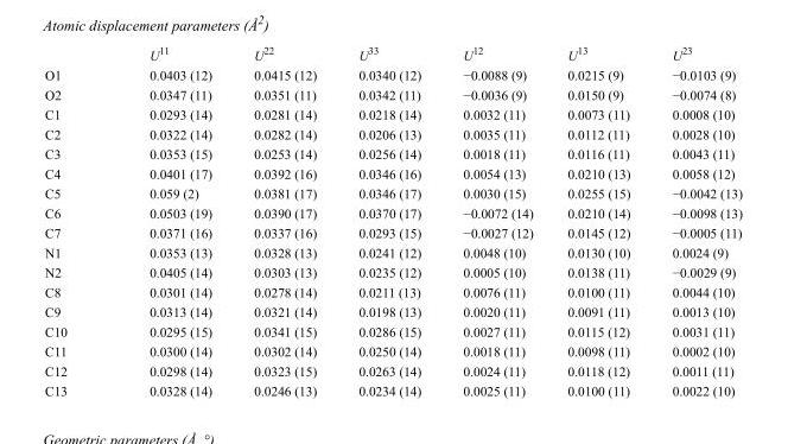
<table><thead><tr><td></td><td>U<sup>11</sup></td><td>U<sup>22</sup></td><td>U<sup>33</sup></td><td>U<sup>12</sup></td><td>U<sup>13</sup></td><td>U<sup>23</sup></td></tr></thead><tbody><tr><td>O1</td><td>0.0403 (12)</td><td>0.0415 (12)</td><td>0.0340 (12)</td><td>−0.0088 (9)</td><td>0.0215 (9)</td><td>−0.0103 (9)</td></tr><tr><td>O2</td><td>0.0347 (11)</td><td>0.0351 (11)</td><td>0.0342 (11)</td><td>−0.0036 (9)</td><td>0.0150 (9)</td><td>−0.0074 (8)</td></tr><tr><td>C1</td><td>0.0293 (14)</td><td>0.0281 (14)</td><td>0.0218 (14)</td><td>0.0032 (11)</td><td>0.0073 (11)</td><td>0.0008 (10)</td></tr><tr><td>C2</td><td>0.0322 (14)</td><td>0.0282 (14)</td><td>0.0206 (13)</td><td>0.0035 (11)</td><td>0.0112 (11)</td><td>0.0028 (10)</td></tr><tr><td>C3</td><td>0.0353 (15)</td><td>0.0253 (14)</td><td>0.0256 (14)</td><td>0.0018 (11)</td><td>0.0116 (11)</td><td>0.0043 (11)</td></tr><tr><td>C4</td><td>0.0401 (17)</td><td>0.0392 (16)</td><td>0.0346 (16)</td><td>0.0054 (13)</td><td>0.0210 (13)</td><td>0.0058 (12)</td></tr><tr><td>C5</td><td>0.059 (2)</td><td>0.0381 (17)</td><td>0.0346 (17)</td><td>0.0030 (15)</td><td>0.0255 (15)</td><td>−0.0042 (13)</td></tr><tr><td>C6</td><td>0.0503 (19)</td><td>0.0390 (17)</td><td>0.0370 (17)</td><td>−0.0072 (14)</td><td>0.0210 (14)</td><td>−0.0098 (13)</td></tr><tr><td>C7</td><td>0.0371 (16)</td><td>0.0337 (16)</td><td>0.0293 (15)</td><td>−0.0027 (12)</td><td>0.0145 (12)</td><td>−0.0005 (11)</td></tr><tr><td>N1</td><td>0.0353 (13)</td><td>0.0328 (13)</td><td>0.0241 (12)</td><td>0.0048 (10)</td><td>0.0130 (10)</td><td>0.0024 (9)</td></tr><tr><td>N2</td><td>0.0405 (14)</td><td>0.0303 (13)</td><td>0.0235 (12)</td><td>0.0005 (10)</td><td>0.0138 (11)</td><td>−0.0029 (9)</td></tr><tr><td>C8</td><td>0.0301 (14)</td><td>0.0278 (14)</td><td>0.0211 (13)</td><td>0.0076 (11)</td><td>0.0100 (11)</td><td>0.0044 (10)</td></tr><tr><td>C9</td><td>0.0313 (14)</td><td>0.0321 (14)</td><td>0.0198 (13)</td><td>0.0020 (11)</td><td>0.0091 (11)</td><td>0.0013 (10)</td></tr><tr><td>C10</td><td>0.0295 (15)</td><td>0.0341 (15)</td><td>0.0286 (15)</td><td>0.0027 (11)</td><td>0.0115 (12)</td><td>0.0031 (11)</td></tr><tr><td>C11</td><td>0.0300 (14)</td><td>0.0302 (14)</td><td>0.0250 (14)</td><td>0.0018 (11)</td><td>0.0098 (11)</td><td>0.0002 (10)</td></tr><tr><td>C12</td><td>0.0298 (14)</td><td>0.0323 (15)</td><td>0.0263 (14)</td><td>0.0024 (11)</td><td>0.0118 (12)</td><td>0.0011 (11)</td></tr><tr><td>C13</td><td>0.0328 (14)</td><td>0.0246 (13)</td><td>0.0234 (14)</td><td>0.0025 (11)</td><td>0.0100 (11)</td><td>0.0022 (10)</td></tr></tbody></table>